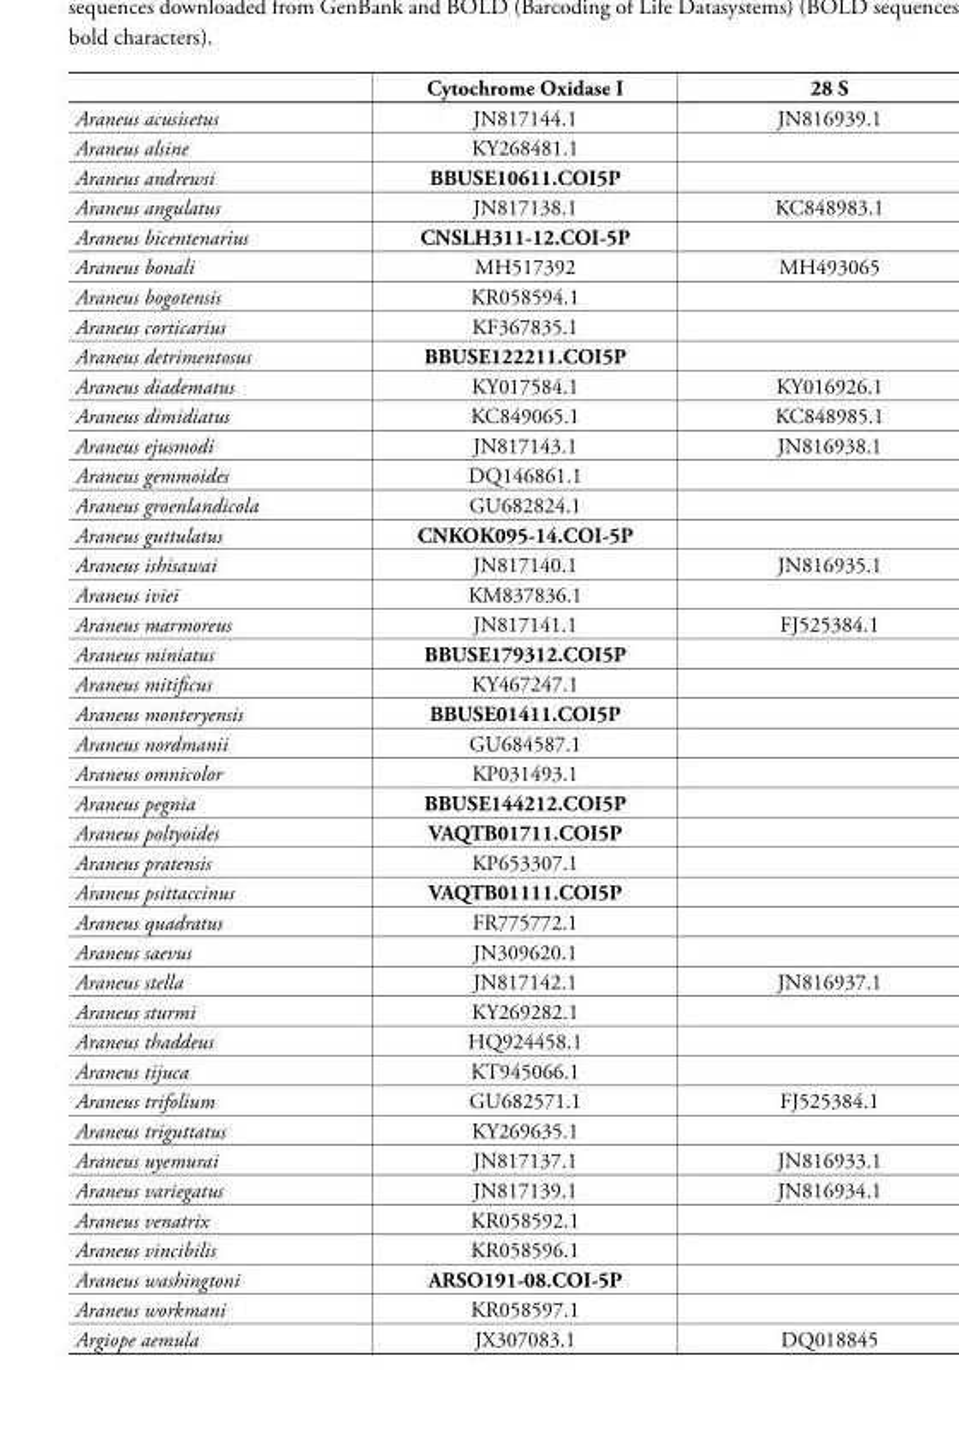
<table><thead><tr><td></td><td>Cytochrome Oxidase I</td><td>28 S</td></tr></thead><tbody><tr><td>Araneus acusisetus</td><td>JN817144.1</td><td>JN816939.1</td></tr><tr><td>Araneus alsine</td><td>KY268481.1</td><td></td></tr><tr><td>Araneus andrewsi</td><td>BBUSE10611.COI5P</td><td></td></tr><tr><td>Araneus angulatus</td><td>JN817138.1</td><td>KC848983.1</td></tr><tr><td>Araneus bicentenarius</td><td>CNSLH311-12.COI-5P</td><td></td></tr><tr><td>Araneus bonali</td><td>MH517392</td><td>MH493065</td></tr><tr><td>Araneus bogotensis</td><td>KR058594.1</td><td></td></tr><tr><td>Araneus corticarius</td><td>KF367835.1</td><td></td></tr><tr><td>Araneus detrimentosus</td><td>BBUSE122211.COI5P</td><td></td></tr><tr><td>Araneus diadematus</td><td>KY017584.1</td><td>KY016926.1</td></tr><tr><td>Araneus dimidiatus</td><td>KC849065.1</td><td>KC848985.1</td></tr><tr><td>Araneus ejusmodi</td><td>JN817143.1</td><td>JN816938.1</td></tr><tr><td>Araneus gemmoides</td><td>DQ146861.1</td><td></td></tr><tr><td>Araneus groenlandicola</td><td>GU682824.1</td><td></td></tr><tr><td>Araneus guttulatus</td><td>CNKOK095-14.COI-5P</td><td></td></tr><tr><td>Araneus ishisawai</td><td>JN817140.1</td><td>JN816935.1</td></tr><tr><td>Araneus iviei</td><td>KM837836.1</td><td></td></tr><tr><td>Araneus marmoreus</td><td>JN817141.1</td><td>FJ525384.1</td></tr><tr><td>Araneus miniatus</td><td>BBUSE179312.COI5P</td><td></td></tr><tr><td>Araneus mitificus</td><td>KY467247.1</td><td></td></tr><tr><td>Araneus monteryensis</td><td>BBUSE01411.COI5P</td><td></td></tr><tr><td>Araneus nordmanii</td><td>GU684587.1</td><td></td></tr><tr><td>Araneus omnicolor</td><td>KP031493.1</td><td></td></tr><tr><td>Araneus pegnia</td><td>BBUSE144212.COI5P</td><td></td></tr><tr><td>Araneus poltyoides</td><td>VAQTB01711.COI5P</td><td></td></tr><tr><td>Araneus pratensis</td><td>KP653307.1</td><td></td></tr><tr><td>Araneus psittaccinus</td><td>VAQTB01111.COI5P</td><td></td></tr><tr><td>Araneus quadratus</td><td>FR775772.1</td><td></td></tr><tr><td>Araneus saevus</td><td>JN309620.1</td><td></td></tr><tr><td>Araneus stella</td><td>JN817142.1</td><td>JN816937.1</td></tr><tr><td>Araneus sturmi</td><td>KY269282.1</td><td></td></tr><tr><td>Araneus thaddeus</td><td>HQ924458.1</td><td></td></tr><tr><td>Araneus tijuca</td><td>KT945066.1</td><td></td></tr><tr><td>Araneus trifolium</td><td>GU682571.1</td><td>FJ525384.1</td></tr><tr><td>Araneus triguttatus</td><td>KY269635.1</td><td></td></tr><tr><td>Araneus uyemurai</td><td>JN817137.1</td><td>JN816933.1</td></tr><tr><td>Araneus variegatus</td><td>JN817139.1</td><td>JN816934.1</td></tr><tr><td>Araneus venatrix</td><td>KR058592.1</td><td></td></tr><tr><td>Araneus vincibilis</td><td>KR058596.1</td><td></td></tr><tr><td>Araneus washingtoni</td><td>ARSO191-08.COI-5P</td><td></td></tr><tr><td>Araneus workmani</td><td>KR058597.1</td><td></td></tr><tr><td>Argiope aemula</td><td>JX307083.1</td><td>DQ018845</td></tr></tbody></table>